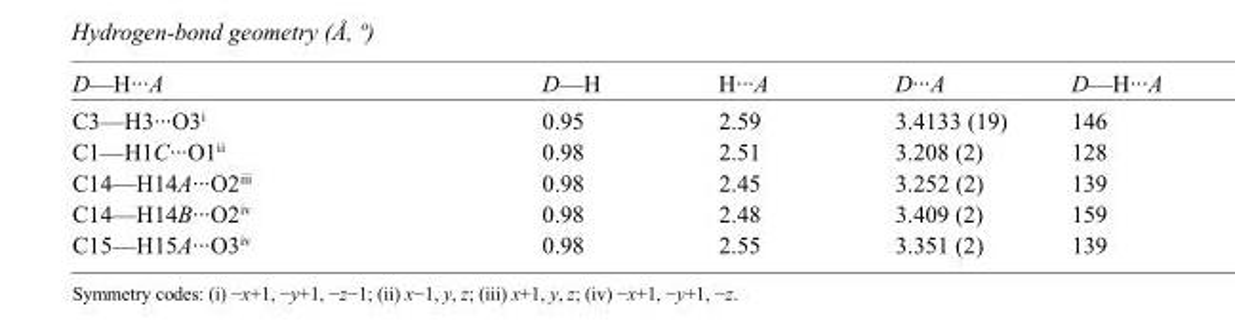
<table><tbody><tr><td>D—H···A</td><td>D—H</td><td>H···A</td><td>D···A</td><td>D—H···A</td></tr><tr><td>C3—H3···O3<sup>i</sup></td><td>0.95</td><td>2.59</td><td>3.4133 (19)</td><td>146</td></tr><tr><td>C1—H1C···O1<sup>ii</sup></td><td>0.98</td><td>2.51</td><td>3.208 (2)</td><td>128</td></tr><tr><td>C14—H14A···O2<sup>iii</sup></td><td>0.98</td><td>2.45</td><td>3.252 (2)</td><td>139</td></tr><tr><td>C14—H14B···O2<sup>iv</sup></td><td>0.98</td><td>2.48</td><td>3.409 (2)</td><td>159</td></tr><tr><td>C15—H15A···O3<sup>iv</sup></td><td>0.98</td><td>2.55</td><td>3.351 (2)</td><td>139</td></tr></tbody></table>